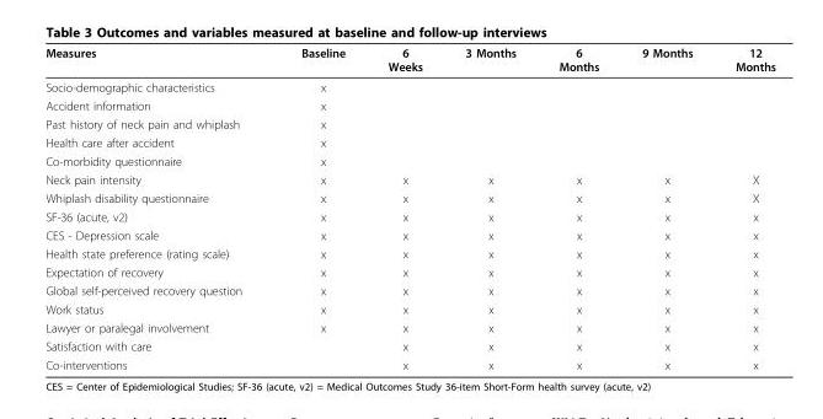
<table><thead><tr><td>Measures</td><td>Baseline</td><td>6 Weeks</td><td>3 Months</td><td>6 Months</td><td>9 Months</td><td>12 Months</td></tr></thead><tbody><tr><td>Socio-demographic characteristics</td><td>x</td><td></td><td></td><td></td><td></td><td></td></tr><tr><td>Accident information</td><td>x</td><td></td><td></td><td></td><td></td><td></td></tr><tr><td>Past history of neck pain and whiplash</td><td>x</td><td></td><td></td><td></td><td></td><td></td></tr><tr><td>Health care after accident</td><td>x</td><td></td><td></td><td></td><td></td><td></td></tr><tr><td>Co-morbidity questionnaire</td><td>x</td><td></td><td></td><td></td><td></td><td></td></tr><tr><td>Neck pain intensity</td><td>x</td><td>x</td><td>x</td><td>x</td><td>x</td><td>X</td></tr><tr><td>Whiplash disability questionnaire</td><td>x</td><td>x</td><td>x</td><td>x</td><td>x</td><td>X</td></tr><tr><td>SF-36 (acute, v2)</td><td>x</td><td>x</td><td>x</td><td>x</td><td>x</td><td>x</td></tr><tr><td>CES - Depression scale</td><td>x</td><td>x</td><td>x</td><td>x</td><td>x</td><td>x</td></tr><tr><td>Health state preference (rating scale)</td><td>x</td><td>x</td><td>x</td><td>x</td><td>x</td><td>x</td></tr><tr><td>Expectation of recovery</td><td>x</td><td>x</td><td>x</td><td>x</td><td>x</td><td>x</td></tr><tr><td>Global self-perceived recovery question</td><td>x</td><td>x</td><td>x</td><td>x</td><td>x</td><td>x</td></tr><tr><td>Work status</td><td>x</td><td>x</td><td>x</td><td>x</td><td>x</td><td>x</td></tr><tr><td>Lawyer or paralegal involvement</td><td>x</td><td>x</td><td>x</td><td>x</td><td>x</td><td>x</td></tr><tr><td>Satisfaction with care</td><td></td><td>x</td><td>x</td><td>x</td><td>x</td><td>x</td></tr><tr><td>Co-interventions</td><td></td><td>x</td><td>x</td><td>x</td><td>x</td><td>x</td></tr></tbody></table>